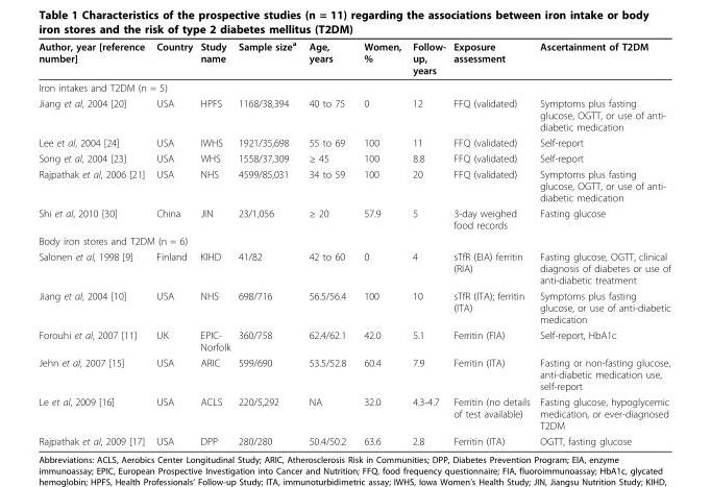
<table><thead><tr><td>Author, year [reference number]</td><td>Country</td><td>Study name</td><td>Sample size<sup>a</sup></td><td>Age, years</td><td>Women, %</td><td>Follow- up, years</td><td>Exposure assessment</td><td>Ascertainment of T2DM</td></tr></thead><tbody><tr><td colspan="9">Iron intakes and T2DM (n = 5)</td></tr><tr><td>Jiang et al, 2004 [20]</td><td>USA</td><td>HPFS</td><td>1168/38,394</td><td>40 to 75</td><td>0</td><td>12</td><td>FFQ (validated)</td><td>Symptoms plus fasting glucose, OGTT, or use of anti- diabetic medication</td></tr><tr><td>Lee et al, 2004 [24]</td><td>USA</td><td>IWHS</td><td>1921/35,698</td><td>55 to 69</td><td>100</td><td>11</td><td>FFQ (validated)</td><td>Self-report</td></tr><tr><td>Song et al, 2004 [23]</td><td>USA</td><td>WHS</td><td>1558/37,309</td><td>≥ 45</td><td>100</td><td>8.8</td><td>FFQ (validated)</td><td>Self-report</td></tr><tr><td>Rajpathak et al, 2006 [21]</td><td>USA</td><td>NHS</td><td>4599/85,031</td><td>34 to 59</td><td>100</td><td>20</td><td>FFQ (validated)</td><td>Symptoms plus fasting glucose, OGTT, or use of anti- diabetic medication</td></tr><tr><td>Shi et al, 2010 [30]</td><td>China</td><td>JIN</td><td>23/1,056</td><td>≥ 20</td><td>57.9</td><td>5</td><td>3-day weighed food records</td><td>Fasting glucose</td></tr><tr><td colspan="9">Body iron stores and T2DM (n = 6)</td></tr><tr><td>Salonen et al, 1998 [9]</td><td>Finland</td><td>KIHD</td><td>41/82</td><td>42 to 60</td><td>0</td><td>4</td><td>sTfR (EIA) ferritin (RIA)</td><td>Fasting glucose, OGTT, clinical diagnosis of diabetes or use of anti-diabetic treatment</td></tr><tr><td>Jiang et al, 2004 [10]</td><td>USA</td><td>NHS</td><td>698/716</td><td>56.5/56.4</td><td>100</td><td>10</td><td>sTfR (ITA); ferritin (ITA)</td><td>Symptoms plus fasting glucose, or use of anti-diabetic medication</td></tr><tr><td>Forouhi et al, 2007 [11]</td><td>UK</td><td>EPIC- Norfolk</td><td>360/758</td><td>62.4/62.1</td><td>42.0</td><td>5.1</td><td>Ferritin (FIA)</td><td>Self-report, HbA1c</td></tr><tr><td>Jehn et al, 2007 [15]</td><td>USA</td><td>ARIC</td><td>599/690</td><td>53.5/52.8</td><td>60.4</td><td>7.9</td><td>Ferritin (ITA)</td><td>Fasting or non-fasting glucose, anti-diabetic medication use, self-report</td></tr><tr><td>Le et al, 2009 [16]</td><td>USA</td><td>ACLS</td><td>220/5,292</td><td>NA</td><td>32.0</td><td>4.3-4.7</td><td>Ferritin (no details of test available)</td><td>Fasting glucose, hypoglycemic medication, or ever-diagnosed T2DM</td></tr><tr><td>Rajpathak et al, 2009 [17]</td><td>USA</td><td>DPP</td><td>280/280</td><td>50.4/50.2</td><td>63.6</td><td>2.8</td><td>Ferritin (ITA)</td><td>OGTT, fasting glucose</td></tr></tbody></table>